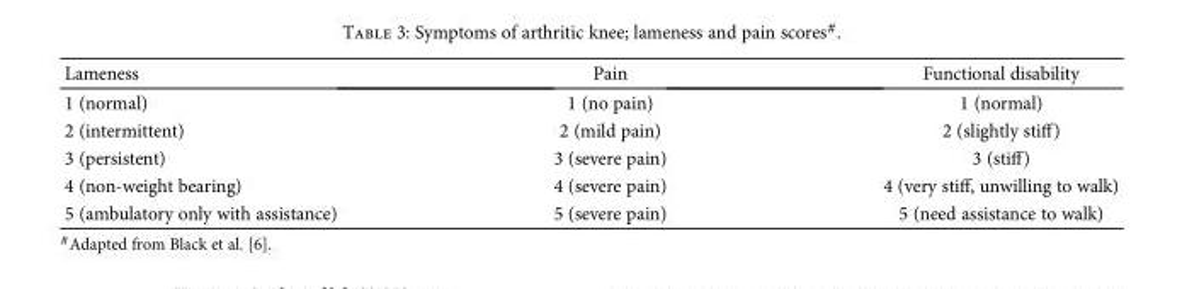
<table><thead><tr><td>Lameness</td><td>Pain</td><td>Functional disability</td></tr></thead><tbody><tr><td>1 (normal)</td><td>1 (no pain)</td><td>1 (normal)</td></tr><tr><td>2 (intermittent)</td><td>2 (mild pain)</td><td>2 (slightly stiff)</td></tr><tr><td>3 (persistent)</td><td>3 (severe pain)</td><td>3 (stiff)</td></tr><tr><td>4 (non-weight bearing)</td><td>4 (severe pain)</td><td>4 (very stiff, unwilling to walk)</td></tr><tr><td>5 (ambulatory only with assistance)</td><td>5 (severe pain)</td><td>5 (need assistance to walk)</td></tr></tbody></table>